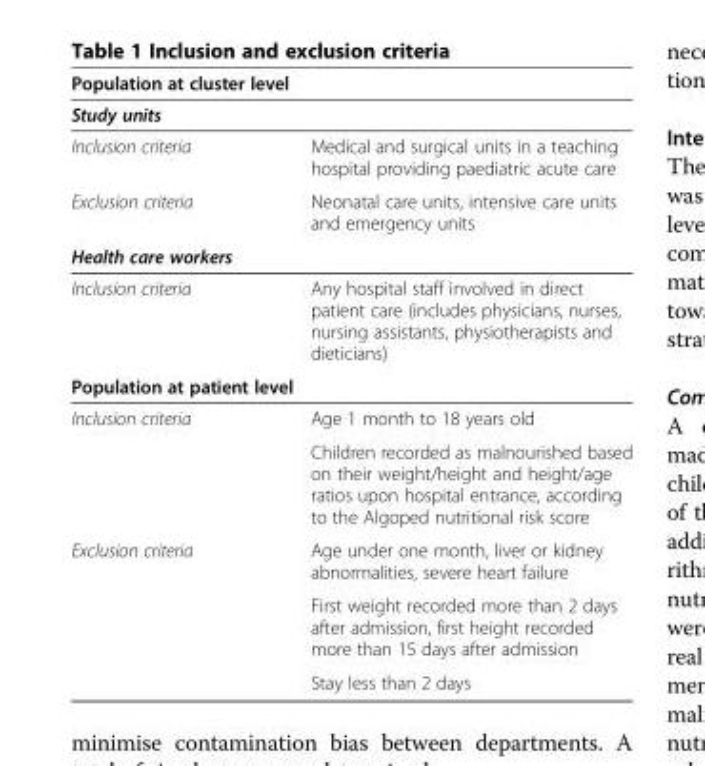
<table><thead><tr><td>Population at cluster level</td><td></td></tr></thead><tbody><tr><td colspan="2">Study units</td></tr><tr><td>Inclusion criteria</td><td>Medical and surgical units in a teaching hospital providing paediatric acute care</td></tr><tr><td>Exclusion criteria</td><td>Neonatal care units, intensive care units and emergency units</td></tr><tr><td colspan="2">Health care workers</td></tr><tr><td>Inclusion criteria</td><td>Any hospital staff involved in direct patient care (includes physicians, nurses, nursing assistants, physiotherapists and dieticians)</td></tr><tr><td colspan="2">Population at patient level</td></tr><tr><td rowspan="2">Inclusion criteria</td><td>Age 1 month to 18 years old</td></tr><tr><td>Children recorded as malnourished based on their weight/height and height/age ratios upon hospital entrance, according to the Algoped nutritional risk score</td></tr><tr><td rowspan="3">Exclusion criteria</td><td>Age under one month, liver or kidney abnormalities, severe heart failure</td></tr><tr><td>First weight recorded more than 2 days after admission, first height recorded more than 15 days after admission</td></tr><tr><td>Stay less than 2 days</td></tr></tbody></table>